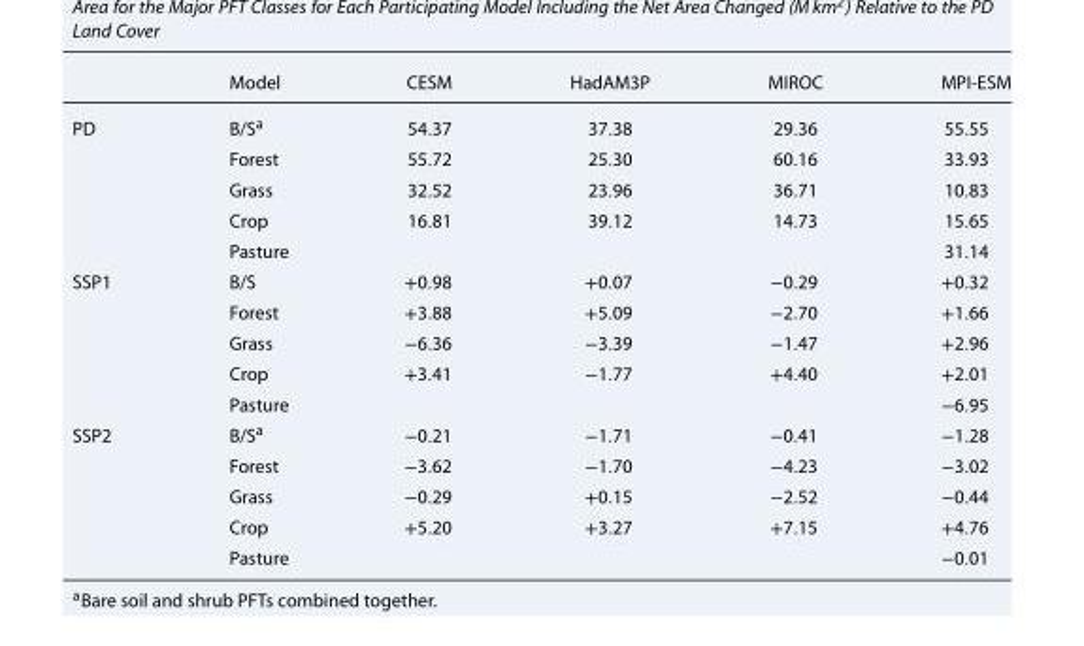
<table><thead><tr><td></td><td>Model</td><td>CESM</td><td>HadAM3P</td><td>MIROC</td><td>MPI-ESM</td></tr></thead><tbody><tr><td rowspan="5">PD</td><td>B/S<sup>a</sup></td><td>54.37</td><td>37.38</td><td>29.36</td><td>55.55</td></tr><tr><td>Forest</td><td>55.72</td><td>25.30</td><td>60.16</td><td>33.93</td></tr><tr><td>Grass</td><td>32.52</td><td>23.96</td><td>36.71</td><td>10.83</td></tr><tr><td>Crop</td><td>16.81</td><td>39.12</td><td>14.73</td><td>15.65</td></tr><tr><td>Pasture</td><td></td><td></td><td></td><td>31.14</td></tr><tr><td rowspan="5">SSP1</td><td>B/S</td><td>+0.98</td><td>+0.07</td><td>−0.29</td><td>+0.32</td></tr><tr><td>Forest</td><td>+3.88</td><td>+5.09</td><td>−2.70</td><td>+1.66</td></tr><tr><td>Grass</td><td>−6.36</td><td>−3.39</td><td>−1.47</td><td>+2.96</td></tr><tr><td>Crop</td><td>+3.41</td><td>−1.77</td><td>+4.40</td><td>+2.01</td></tr><tr><td>Pasture</td><td></td><td></td><td></td><td>−6.95</td></tr><tr><td rowspan="5">SSP2</td><td>B/S<sup>a</sup></td><td>−0.21</td><td>−1.71</td><td>−0.41</td><td>−1.28</td></tr><tr><td>Forest</td><td>−3.62</td><td>−1.70</td><td>−4.23</td><td>−3.02</td></tr><tr><td>Grass</td><td>−0.29</td><td>+0.15</td><td>−2.52</td><td>−0.44</td></tr><tr><td>Crop</td><td>+5.20</td><td>+3.27</td><td>+7.15</td><td>+4.76</td></tr><tr><td>Pasture</td><td></td><td></td><td></td><td>−0.01</td></tr></tbody></table>